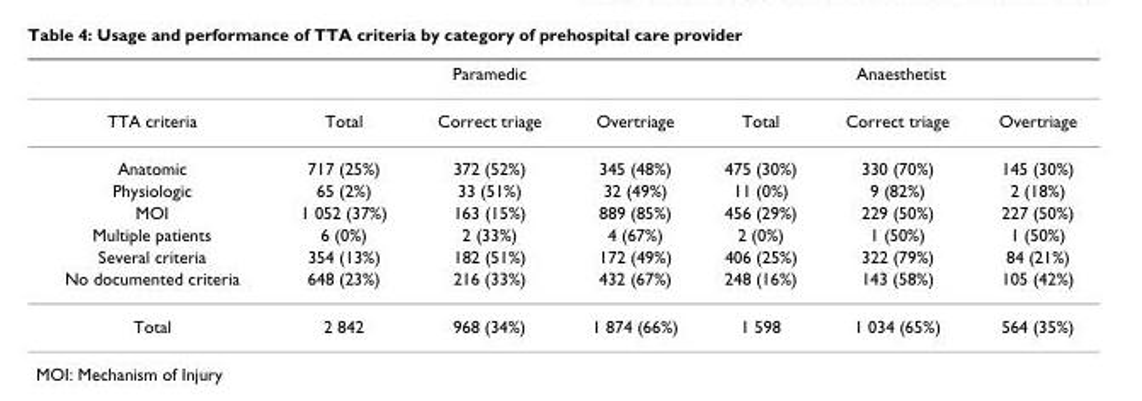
<table><thead><tr><td rowspan="2">TTA criteria</td><td colspan="3">Paramedic</td><td colspan="3">Anaesthetist</td></tr><tr><td>Total</td><td>Correct triage</td><td>Overtriage</td><td>Total</td><td>Correct triage</td><td>Overtriage</td></tr></thead><tbody><tr><td>Anatomic</td><td>717 (25%)</td><td>372 (52%)</td><td>345 (48%)</td><td>475 (30%)</td><td>330 (70%)</td><td>145 (30%)</td></tr><tr><td>Physiologic</td><td>65 (2%)</td><td>33 (51%)</td><td>32 (49%)</td><td>11 (0%)</td><td>9 (82%)</td><td>2 (18%)</td></tr><tr><td>MOI</td><td>1 052 (37%)</td><td>163 (15%)</td><td>889 (85%)</td><td>456 (29%)</td><td>229 (50%)</td><td>227 (50%)</td></tr><tr><td>Multiple patients</td><td>6 (0%)</td><td>2 (33%)</td><td>4 (67%)</td><td>2 (0%)</td><td>1 (50%)</td><td>1 (50%)</td></tr><tr><td>Several criteria</td><td>354 (13%)</td><td>182 (51%)</td><td>172 (49%)</td><td>406 (25%)</td><td>322 (79%)</td><td>84 (21%)</td></tr><tr><td>No documented criteria</td><td>648 (23%)</td><td>216 (33%)</td><td>432 (67%)</td><td>248 (16%)</td><td>143 (58%)</td><td>105 (42%)</td></tr><tr><td>Total</td><td>2 842</td><td>968 (34%)</td><td>1 874 (66%)</td><td>1 598</td><td>1 034 (65%)</td><td>564 (35%)</td></tr></tbody></table>